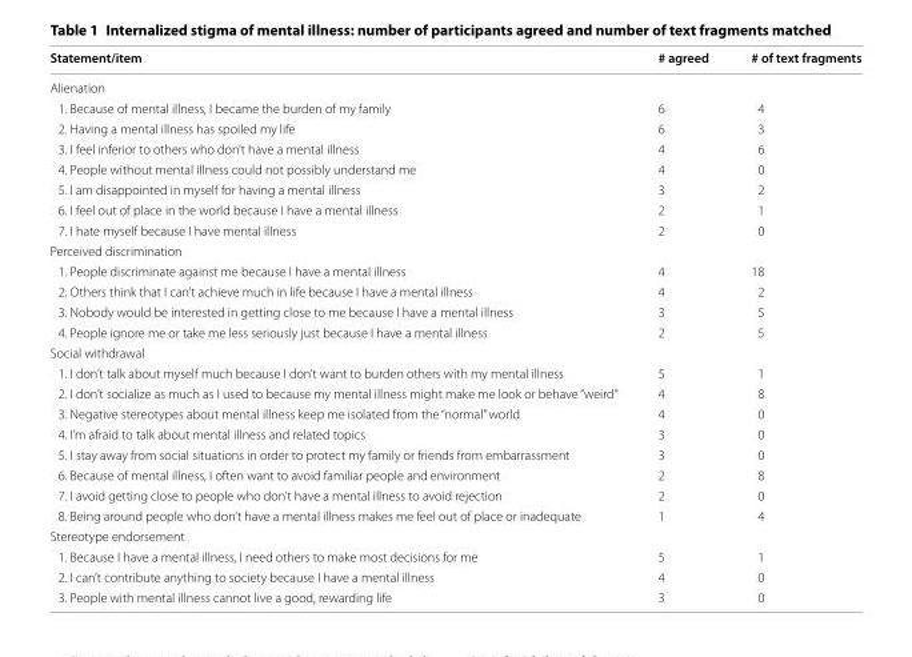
<table><thead><tr><td>Statement/item</td><td># agreed</td><td># of text fragments</td></tr></thead><tbody><tr><td colspan="3">Alienation</td></tr><tr><td>1. Because of mental illness, I became the burden of my family</td><td>6</td><td>4</td></tr><tr><td>2. Having a mental illness has spoiled my life</td><td>6</td><td>3</td></tr><tr><td>3. I feel inferior to others who don’t have a mental illness</td><td>4</td><td>6</td></tr><tr><td>4. People without mental illness could not possibly understand me</td><td>4</td><td>0</td></tr><tr><td>5. I am disappointed in myself for having a mental illness</td><td>3</td><td>2</td></tr><tr><td>6. I feel out of place in the world because I have a mental illness</td><td>2</td><td>1</td></tr><tr><td>7. I hate myself because I have mental illness</td><td>2</td><td>0</td></tr><tr><td colspan="3">Perceived discrimination</td></tr><tr><td>1. People discriminate against me because I have a mental illness</td><td>4</td><td>18</td></tr><tr><td>2. Others think that I can’t achieve much in life because I have a mental illness</td><td>4</td><td>2</td></tr><tr><td>3. Nobody would be interested in getting close to me because I have a mental illness</td><td>3</td><td>5</td></tr><tr><td>4. People ignore me or take me less seriously just because I have a mental illness</td><td>2</td><td>5</td></tr><tr><td colspan="3">Social withdrawal</td></tr><tr><td>1. I don’t talk about myself much because I don’t want to burden others with my mental illness</td><td>5</td><td>1</td></tr><tr><td>2. I don’t socialize as much as I used to because my mental illness might make me look or behave “weird”</td><td>4</td><td>8</td></tr><tr><td>3. Negative stereotypes about mental illness keep me isolated from the “normal” world</td><td>4</td><td>0</td></tr><tr><td>4. I’m afraid to talk about mental illness and related topics</td><td>3</td><td>0</td></tr><tr><td>5. I stay away from social situations in order to protect my family or friends from embarrassment</td><td>3</td><td>0</td></tr><tr><td>6. Because of mental illness, I often want to avoid familiar people and environment</td><td>2</td><td>8</td></tr><tr><td>7. I avoid getting close to people who don’t have a mental illness to avoid rejection</td><td>2</td><td>0</td></tr><tr><td>8. Being around people who don’t have a mental illness makes me feel out of place or inadequate</td><td>1</td><td>4</td></tr><tr><td colspan="3">Stereotype endorsement</td></tr><tr><td>1. Because I have a mental illness, I need others to make most decisions for me</td><td>5</td><td>1</td></tr><tr><td>2. I can’t contribute anything to society because I have a mental illness</td><td>4</td><td>0</td></tr><tr><td>3. People with mental illness cannot live a good, rewarding life</td><td>3</td><td>0</td></tr></tbody></table>